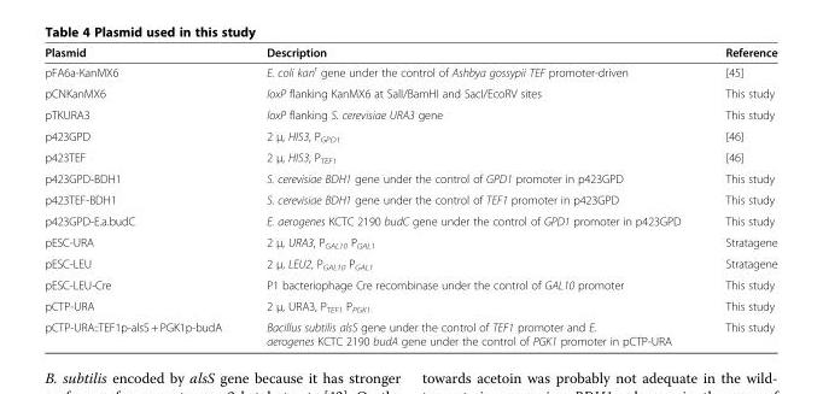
<table><thead><tr><td>Plasmid</td><td>Description</td><td>Reference</td></tr></thead><tbody><tr><td>pFA6a-KanMX6</td><td>E. coli kan<sup>r</sup> gene under the control of Ashbya gossypii TEF promoter-driven</td><td>[45]</td></tr><tr><td>pCNKanMX6</td><td>loxP flanking KanMX6 at SalI/BamHI and SacI/EcoRV sites</td><td>This study</td></tr><tr><td>pTKURA3</td><td>loxP flanking S. cerevisiae URA3 gene</td><td>This study</td></tr><tr><td>p423GPD</td><td>2 μ, HIS3, P<sub>GPD1</sub></td><td>[46]</td></tr><tr><td>p423TEF</td><td>2 μ, HIS3, P<sub>TEF1</sub></td><td>[46]</td></tr><tr><td>p423GPD-BDH1</td><td>S. cerevisiae BDH1 gene under the control of GPD1 promoter in p423GPD</td><td>This study</td></tr><tr><td>p423TEF-BDH1</td><td>S. cerevisiae BDH1 gene under the control of TEF1 promoter in p423GPD</td><td>This study</td></tr><tr><td>p423GPD-E.a.budC</td><td>E. aerogenes KCTC 2190 budC gene under the control of GPD1 promoter in p423GPD</td><td>This study</td></tr><tr><td>pESC-URA</td><td>2 μ, URA3, P<sub>GAL10</sub> P<sub>GAL1</sub></td><td>Stratagene</td></tr><tr><td>pESC-LEU</td><td>2 μ, LEU2, P<sub>GAL10</sub> P<sub>GAL1</sub></td><td>Stratagene</td></tr><tr><td>pESC-LEU-Cre</td><td>P1 bacteriophage Cre recombinase under the control of GAL10 promoter</td><td>This study</td></tr><tr><td>pCTP-URA</td><td>2 μ, URA3, P<sub>TEF1</sub> P<sub>PGK1</sub></td><td>This study</td></tr><tr><td>pCTP-URA::TEF1p-alsS + PGK1p-budA</td><td>Bacillus subtilis alsS gene under the control of TEF1 promoter and E. aerogenes KCTC 2190 budA gene under the control of PGK1 promoter in pCTP-URA</td><td>This study</td></tr></tbody></table>